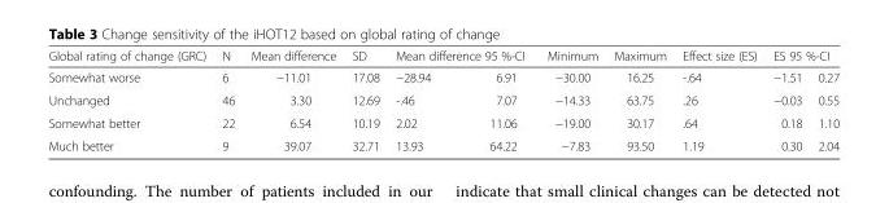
<table><thead><tr><td rowspan="2">Global rating of change (GRC) Somewhat worse</td><td rowspan="2">N 6</td><td rowspan="2">Mean difference −11.01</td><td rowspan="2">SD 17.08</td><td colspan="2">Mean difference 95 %-CI</td><td rowspan="2">Minimum −30.00</td><td rowspan="2">Maximum 16.25</td><td rowspan="2">Effect size (ES) -.64</td><td colspan="2">ES 95 %-CI</td></tr><tr><td>−28.94</td><td>6.91</td><td>−1.51</td><td>0.27</td></tr></thead><tbody><tr><td>Unchanged</td><td>46</td><td>3.30</td><td>12.69</td><td>-.46</td><td>7.07</td><td>−14.33</td><td>63.75</td><td>.26</td><td>−0.03</td><td>0.55</td></tr><tr><td>Somewhat better</td><td>22</td><td>6.54</td><td>10.19</td><td>2.02</td><td>11.06</td><td>−19.00</td><td>30.17</td><td>.64</td><td>0.18</td><td>1.10</td></tr><tr><td>Much better</td><td>9</td><td>39.07</td><td>32.71</td><td>13.93</td><td>64.22</td><td>−7.83</td><td>93.50</td><td>1.19</td><td>0.30</td><td>2.04</td></tr></tbody></table>